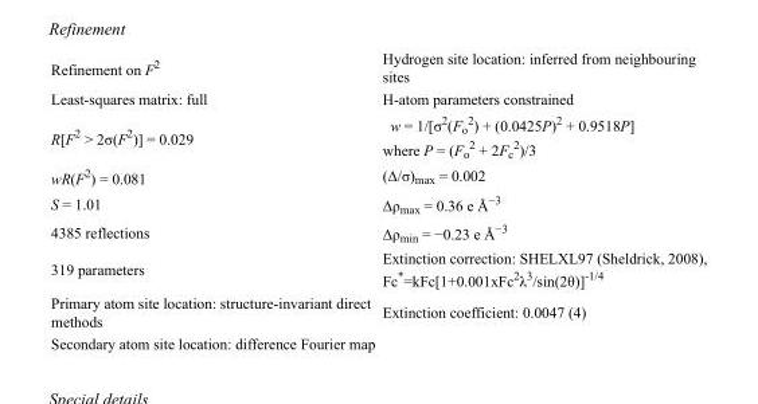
<table><tbody><tr><td>Refinement on F<sup>2</sup></td><td>Hydrogen site location: inferred from neighbouring sites</td></tr><tr><td>Least-squares matrix: full</td><td>H-atom parameters constrained</td></tr><tr><td>R[F<sup>2</sup> &gt; 2σ(F<sup>2</sup>)] = 0.029</td><td>w = 1/[σ<sup>2</sup>(F<sub>o</sub> <sup>2</sup>) + (0.0425P)<sup>2</sup> + 0.9518P] where P = (F<sub>o</sub> <sup>2</sup> + 2F<sub>c</sub> <sup>2</sup>)/3</td></tr><tr><td>wR(F<sup>2</sup>) = 0.081</td><td>(Δ/σ)<sub>max</sub> = 0.002</td></tr><tr><td>S = 1.01</td><td>Δρ<sub>max</sub> = 0.36 e Å<sup>−3</sup></td></tr><tr><td>4385 reflections</td><td>Δρ<sub>min</sub> = −0.23 e Å<sup>−3</sup></td></tr><tr><td>319 parameters</td><td>Extinction correction: SHELXL97 (Sheldrick, 2008), Fc*=kFc[1+0.001xFc<sup>2</sup>λ<sup>3</sup>/sin(2θ)]<sup>-1/4</sup></td></tr><tr><td>Primary atom site location: structure-invariant direct methods</td><td>Extinction coefficient: 0.0047 (4)</td></tr><tr><td>Secondary atom site location: difference Fourier map</td><td></td></tr></tbody></table>